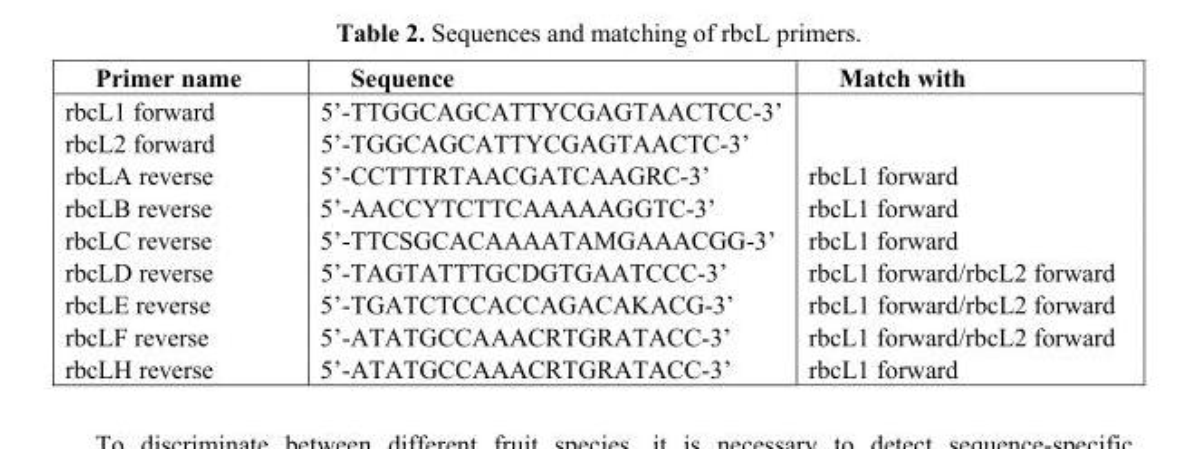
<table><thead><tr><td>Primer name</td><td>Sequence</td><td>Match with</td></tr></thead><tbody><tr><td>rbcL1 forward</td><td>5’-TTGGCAGCATTYCGAGTAACTCC-3’</td><td></td></tr><tr><td>rbcL2 forward</td><td>5’-TGGCAGCATTYCGAGTAACTC-3’</td><td></td></tr><tr><td>rbcLA reverse</td><td>5’-CCTTTRTAACGATCAAGRC-3’</td><td>rbcL1 forward</td></tr><tr><td>rbcLB reverse</td><td>5’-AACCYTCTTCAAAAAGGTC-3’</td><td>rbcL1 forward</td></tr><tr><td>rbcLC reverse</td><td>5’-TTCSGCACAAAATAMGAAACGG-3’</td><td>rbcL1 forward</td></tr><tr><td>rbcLD reverse</td><td>5’-TAGTATTTGCDGTGAATCCC-3’</td><td>rbcL1 forward/rbcL2 forward</td></tr><tr><td>rbcLE reverse</td><td>5’-TGATCTCCACCAGACAKACG-3’</td><td>rbcL1 forward/rbcL2 forward</td></tr><tr><td>rbcLF reverse</td><td>5’-ATATGCCAAACRTGRATACC-3’</td><td>rbcL1 forward/rbcL2 forward</td></tr><tr><td>rbcLH reverse</td><td>5’-ATATGCCAAACRTGRATACC-3’</td><td>rbcL1 forward</td></tr></tbody></table>